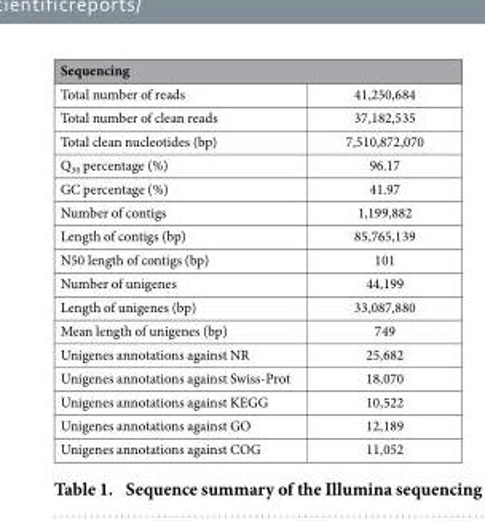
<table><thead><tr><td colspan="2">Sequencing</td></tr><tr><td>Total number of reads</td><td>41,250,684</td></tr></thead><tbody><tr><td>Total number of clean reads</td><td>37,182,535</td></tr><tr><td>Total clean nucleotides (bp)</td><td>7,510,872,070</td></tr><tr><td>Q<sub>30</sub> percentage (%)</td><td>96.17</td></tr><tr><td>GC percentage (%)</td><td>41.97</td></tr><tr><td>Number of contigs</td><td>1,199,882</td></tr><tr><td>Length of contigs (bp)</td><td>85,765,139</td></tr><tr><td>N50 length of contigs (bp)</td><td>101</td></tr><tr><td>Number of unigenes</td><td>44,199</td></tr><tr><td>Length of unigenes (bp)</td><td>33,087,880</td></tr><tr><td>Mean length of unigenes (bp)</td><td>749</td></tr><tr><td>Unigenes annotations against NR</td><td>25,682</td></tr><tr><td>Unigenes annotations against Swiss-Prot</td><td>18,070</td></tr><tr><td>Unigenes annotations against KEGG</td><td>10,522</td></tr><tr><td>Unigenes annotations against GO</td><td>12,189</td></tr><tr><td>Unigenes annotations against COG</td><td>11,052</td></tr></tbody></table>